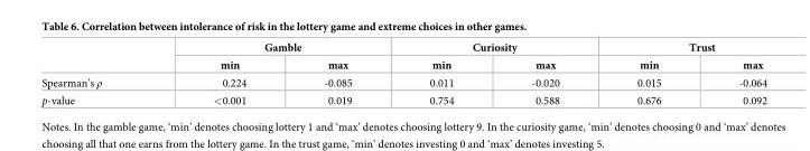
<table><thead><tr><td rowspan="2"></td><td colspan="2">Gamble</td><td colspan="2">Curiosity</td><td colspan="2">Trust</td></tr><tr><td>min</td><td>max</td><td>min</td><td>max</td><td>min</td><td>max</td></tr></thead><tbody><tr><td>Spearman’s ρ</td><td>0.224</td><td>-0.085</td><td>0.011</td><td>-0.020</td><td>0.015</td><td>-0.064</td></tr><tr><td>p-value</td><td>&lt;0.001</td><td>0.019</td><td>0.754</td><td>0.588</td><td>0.676</td><td>0.092</td></tr></tbody></table>